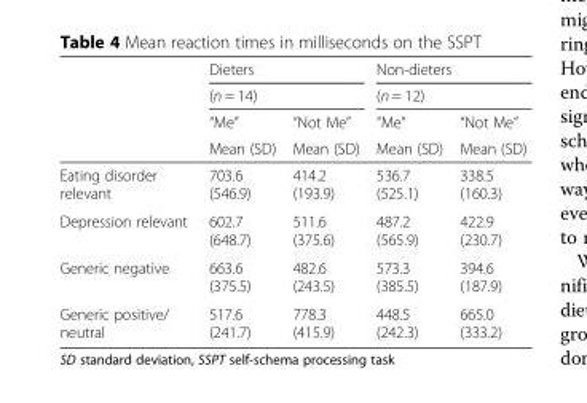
<table><thead><tr><td rowspan="4"></td><td rowspan="2" colspan="2">Dieters (n = 14)</td><td rowspan="2" colspan="2">Non-dieters (n = 12)</td></tr><tr></tr><tr><td rowspan="2">“Me” Mean (SD)</td><td rowspan="2">“Not Me” Mean (SD)</td><td rowspan="2">“Me” Mean (SD)</td><td rowspan="2">“Not Me” Mean (SD)</td></tr><tr></tr></thead><tbody><tr><td>Eating disorder relevant</td><td>703.6 (546.9)</td><td>414.2 (193.9)</td><td>536.7 (525.1)</td><td>338.5 (160.3)</td></tr><tr><td>Depression relevant</td><td>602.7 (648.7)</td><td>511.6 (375.6)</td><td>487.2 (565.9)</td><td>422.9 (230.7)</td></tr><tr><td>Generic negative</td><td>663.6 (375.5)</td><td>482.6 (243.5)</td><td>573.3 (385.5)</td><td>394.6 (187.9)</td></tr><tr><td>Generic positive/ neutral</td><td>517.6 (241.7)</td><td>778.3 (415.9)</td><td>448.5 (242.3)</td><td>665.0 (333.2)</td></tr></tbody></table>